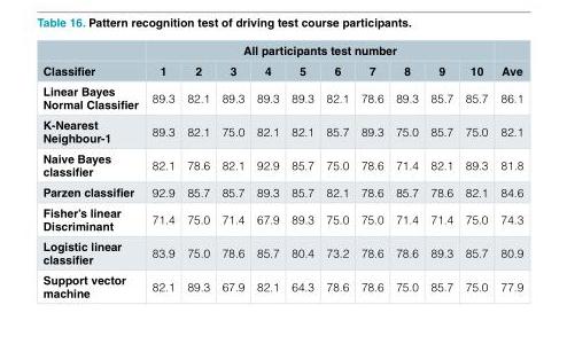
<table><thead><tr><td rowspan="2">Classifier</td><td colspan="10">All participants test number</td><td rowspan="2">Ave</td></tr><tr><td>1</td><td>2</td><td>3</td><td>4</td><td>5</td><td>6</td><td>7</td><td>8</td><td>9</td><td>10</td></tr></thead><tbody><tr><td>Linear Bayes Normal Classifier</td><td>89.3</td><td>82.1</td><td>89.3</td><td>89.3</td><td>89.3</td><td>82.1</td><td>78.6</td><td>89.3</td><td>85.7</td><td>85.7</td><td>86.1</td></tr><tr><td>K-Nearest Neighbour-1</td><td>89.3</td><td>82.1</td><td>75.0</td><td>82.1</td><td>82.1</td><td>85.7</td><td>89.3</td><td>75.0</td><td>85.7</td><td>75.0</td><td>82.1</td></tr><tr><td>Naive Bayes classifier</td><td>82.1</td><td>78.6</td><td>82.1</td><td>92.9</td><td>85.7</td><td>75.0</td><td>78.6</td><td>71.4</td><td>82.1</td><td>89.3</td><td>81.8</td></tr><tr><td>Parzen classifier</td><td>92.9</td><td>85.7</td><td>85.7</td><td>89.3</td><td>85.7</td><td>82.1</td><td>78.6</td><td>85.7</td><td>78.6</td><td>82.1</td><td>84.6</td></tr><tr><td>Fisher’s linear Discriminant</td><td>71.4</td><td>75.0</td><td>71.4</td><td>67.9</td><td>89.3</td><td>75.0</td><td>75.0</td><td>71.4</td><td>71.4</td><td>75.0</td><td>74.3</td></tr><tr><td>Logistic linear classifier</td><td>83.9</td><td>75.0</td><td>78.6</td><td>85.7</td><td>80.4</td><td>73.2</td><td>78.6</td><td>78.6</td><td>89.3</td><td>85.7</td><td>80.9</td></tr><tr><td>Support vector machine</td><td>82.1</td><td>89.3</td><td>67.9</td><td>82.1</td><td>64.3</td><td>78.6</td><td>78.6</td><td>75.0</td><td>85.7</td><td>75.0</td><td>77.9</td></tr></tbody></table>